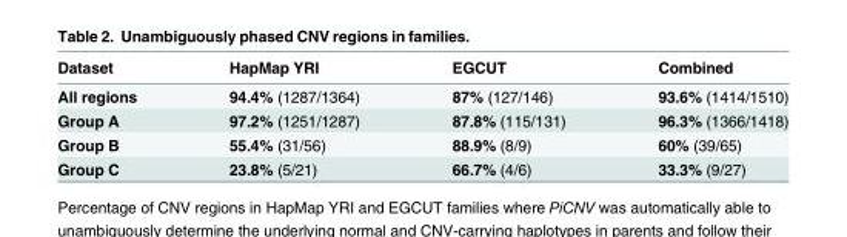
<table><thead><tr><td>Dataset</td><td>HapMap YRI</td><td>EGCUT</td><td>Combined</td></tr></thead><tbody><tr><td>All regions</td><td>94.4% (1287/1364)</td><td>87% (127/146)</td><td>93.6% (1414/1510)</td></tr><tr><td>Group A</td><td>97.2% (1251/1287)</td><td>87.8% (115/131)</td><td>96.3% (1366/1418)</td></tr><tr><td>Group B</td><td>55.4% (31/56)</td><td>88.9% (8/9)</td><td>60% (39/65)</td></tr><tr><td>Group C</td><td>23.8% (5/21)</td><td>66.7% (4/6)</td><td>33.3% (9/27)</td></tr></tbody></table>